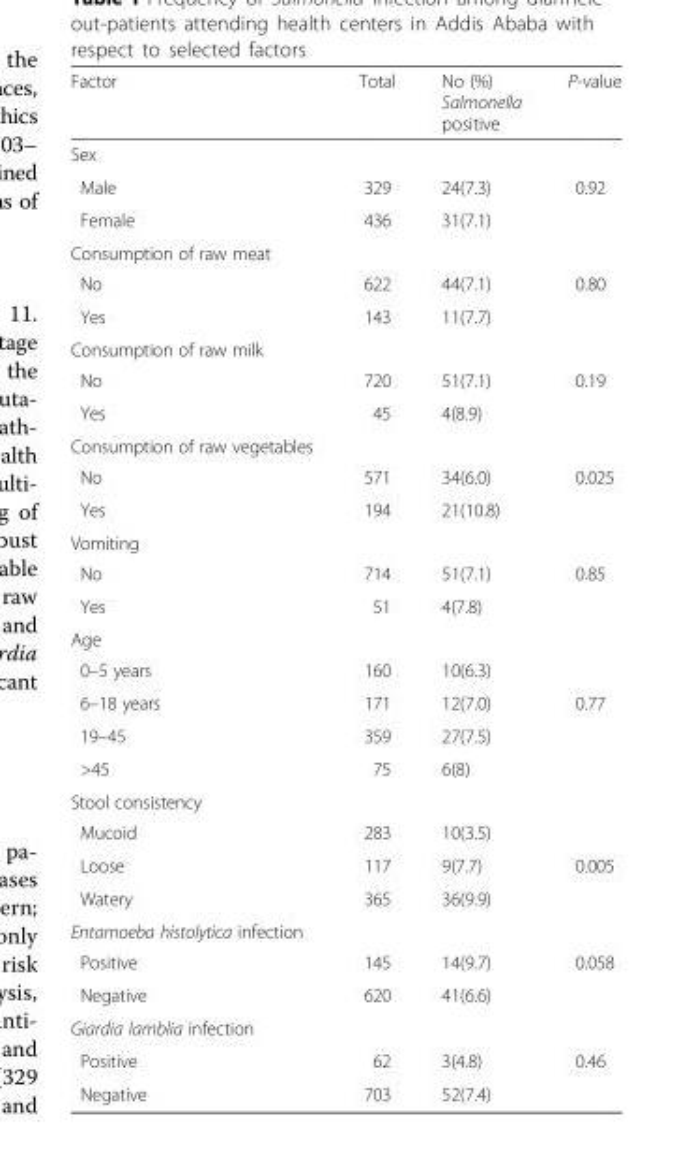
<table><thead><tr><td>Factor</td><td>Total</td><td>No (%) Salmonella positive</td><td>P-value</td></tr></thead><tbody><tr><td colspan="4">Sex</td></tr><tr><td>Male</td><td>329</td><td>24(7.3)</td><td rowspan="2">0.92</td></tr><tr><td>Female</td><td>436</td><td>31(7.1)</td></tr><tr><td colspan="4">Consumption of raw meat</td></tr><tr><td>No</td><td>622</td><td>44(7.1)</td><td rowspan="2">0.80</td></tr><tr><td>Yes</td><td>143</td><td>11(7.7)</td></tr><tr><td colspan="4">Consumption of raw milk</td></tr><tr><td>No</td><td>720</td><td>51(7.1)</td><td rowspan="2">0.19</td></tr><tr><td>Yes</td><td>45</td><td>4(8.9)</td></tr><tr><td colspan="4">Consumption of raw vegetables</td></tr><tr><td>No</td><td>571</td><td>34(6.0)</td><td rowspan="2">0.025</td></tr><tr><td>Yes</td><td>194</td><td>21(10.8)</td></tr><tr><td colspan="4">Vomiting</td></tr><tr><td>No</td><td>714</td><td>51(7.1)</td><td rowspan="2">0.85</td></tr><tr><td>Yes</td><td>51</td><td>4(7.8)</td></tr><tr><td colspan="4">Age</td></tr><tr><td>0–5 years</td><td>160</td><td>10(6.3)</td><td></td></tr><tr><td>6–18 years</td><td>171</td><td>12(7.0)</td><td>0.77</td></tr><tr><td>19–45</td><td>359</td><td>27(7.5)</td><td></td></tr><tr><td>&gt;45</td><td>75</td><td>6(8)</td><td></td></tr><tr><td colspan="4">Stool consistency</td></tr><tr><td>Mucoid</td><td>283</td><td>10(3.5)</td><td></td></tr><tr><td>Loose</td><td>117</td><td>9(7.7)</td><td>0.005</td></tr><tr><td>Watery</td><td>365</td><td>36(9.9)</td><td></td></tr><tr><td colspan="4">Entamoeba histolytica infection</td></tr><tr><td>Positive</td><td>145</td><td>14(9.7)</td><td>0.058</td></tr><tr><td>Negative</td><td>620</td><td>41(6.6)</td><td></td></tr><tr><td colspan="4">Giardia lamblia infection</td></tr><tr><td>Positive</td><td>62</td><td>3(4.8)</td><td>0.46</td></tr><tr><td>Negative</td><td>703</td><td>52(7.4)</td><td></td></tr></tbody></table>